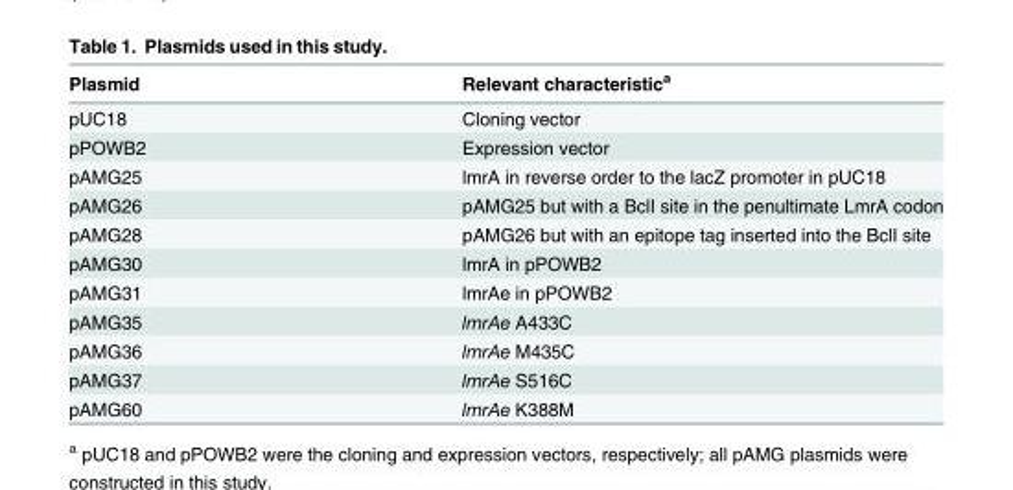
<table><thead><tr><td>Plasmid</td><td>Relevant characteristic<sup>a</sup></td></tr></thead><tbody><tr><td>pUC18</td><td>Cloning vector</td></tr><tr><td>pPOWB2</td><td>Expression vector</td></tr><tr><td>pAMG25</td><td>lmrA in reverse order to the lacZ promoter in pUC18</td></tr><tr><td>pAMG26</td><td>pAMG25 but with a BclI site in the penultimate LmrA codon</td></tr><tr><td>pAMG28</td><td>pAMG26 but with an epitope tag inserted into the BclI site</td></tr><tr><td>pAMG30</td><td>lmrA in pPOWB2</td></tr><tr><td>pAMG31</td><td>lmrAe in pPOWB2</td></tr><tr><td>pAMG35</td><td>lmrAe A433C</td></tr><tr><td>pAMG36</td><td>lmrAe M435C</td></tr><tr><td>pAMG37</td><td>lmrAe S516C</td></tr><tr><td>pAMG60</td><td>lmrAe K388M</td></tr></tbody></table>